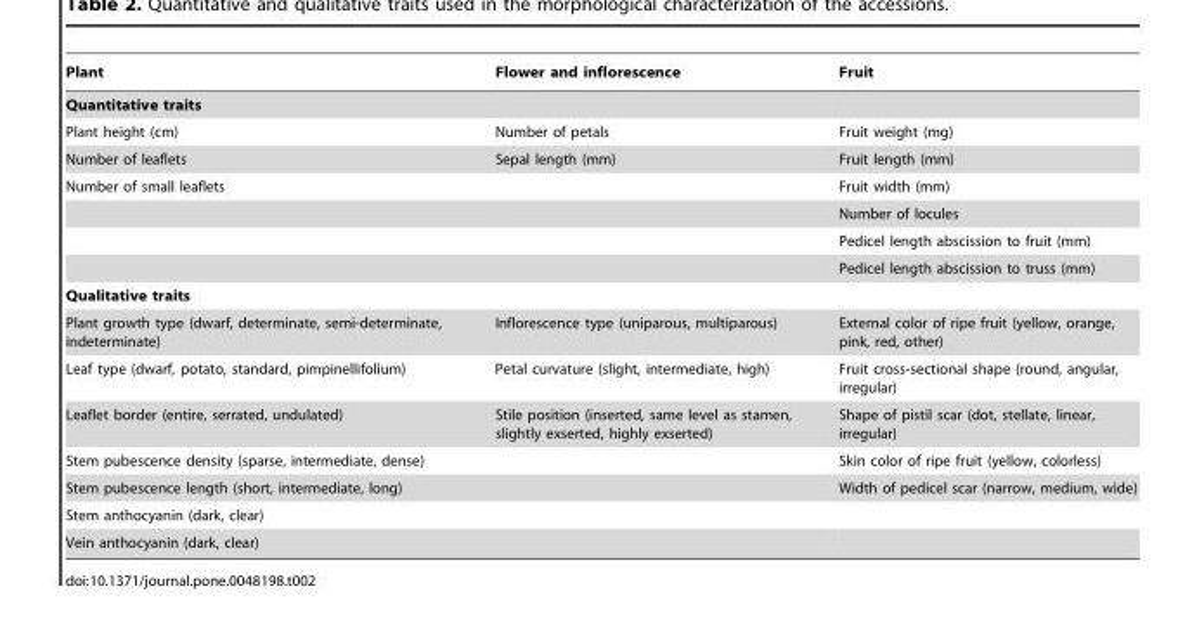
<table><thead><tr><td>Plant</td><td>Flower and inflorescence</td><td>Fruit</td></tr></thead><tbody><tr><td colspan="3">Quantitative traits</td></tr><tr><td>Plant height (cm)</td><td>Number of petals</td><td>Fruit weight (mg)</td></tr><tr><td>Number of leaflets</td><td>Sepal length (mm)</td><td>Fruit length (mm)</td></tr><tr><td rowspan="4">Number of small leaflets</td><td></td><td>Fruit width (mm)</td></tr><tr><td></td><td>Number of locules</td></tr><tr><td></td><td>Pedicel length abscission to fruit (mm)</td></tr><tr><td></td><td>Pedicel length abscission to truss (mm)</td></tr><tr><td colspan="3">Qualitative traits</td></tr><tr><td>Plant growth type (dwarf, determinate, semi-determinate, indeterminate)</td><td>Inflorescence type (uniparous, multiparous)</td><td>External color of ripe fruit (yellow, orange, pink, red, other)</td></tr><tr><td>Leaf type (dwarf, potato, standard, pimpinellifolium)</td><td>Petal curvature (slight, intermediate, high)</td><td>Fruit cross-sectional shape (round, angular, irregular)</td></tr><tr><td>Leaflet border (entire, serrated, undulated)</td><td>Stile position (inserted, same level as stamen, slightly exserted, highly exserted)</td><td>Shape of pistil scar (dot, stellate, linear, irregular)</td></tr><tr><td>Stem pubescence density (sparse, intermediate, dense)</td><td></td><td>Skin color of ripe fruit (yellow, colorless)</td></tr><tr><td>Stem pubescence length (short, intermediate, long)</td><td></td><td>Width of pedicel scar (narrow, medium, wide)</td></tr><tr><td colspan="3">Stem anthocyanin (dark, clear)</td></tr><tr><td>Vein anthocyanin (dark, clear)</td><td></td><td></td></tr></tbody></table>